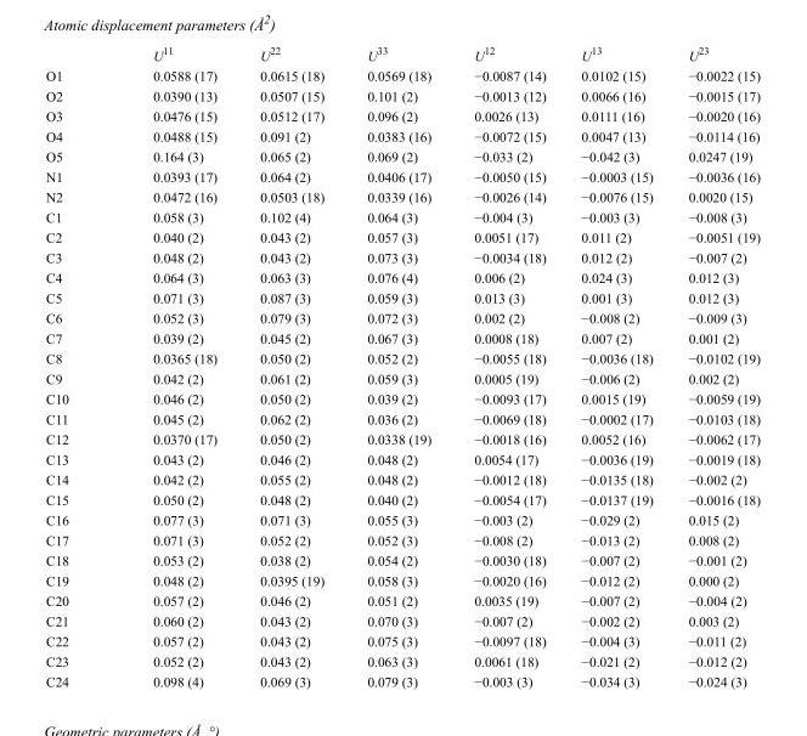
<table><thead><tr><td></td><td>U<sup>11</sup></td><td>U<sup>22</sup></td><td>U<sup>33</sup></td><td>U<sup>12</sup></td><td>U<sup>13</sup></td><td>U<sup>23</sup></td></tr></thead><tbody><tr><td>O1</td><td>0.0588 (17)</td><td>0.0615 (18)</td><td>0.0569 (18)</td><td>−0.0087 (14)</td><td>0.0102 (15)</td><td>−0.0022 (15)</td></tr><tr><td>O2</td><td>0.0390 (13)</td><td>0.0507 (15)</td><td>0.101 (2)</td><td>−0.0013 (12)</td><td>0.0066 (16)</td><td>−0.0015 (17)</td></tr><tr><td>O3</td><td>0.0476 (15)</td><td>0.0512 (17)</td><td>0.096 (2)</td><td>0.0026 (13)</td><td>0.0111 (16)</td><td>−0.0020 (16)</td></tr><tr><td>O4</td><td>0.0488 (15)</td><td>0.091 (2)</td><td>0.0383 (16)</td><td>−0.0072 (15)</td><td>0.0047 (13)</td><td>−0.0114 (16)</td></tr><tr><td>O5</td><td>0.164 (3)</td><td>0.065 (2)</td><td>0.069 (2)</td><td>−0.033 (2)</td><td>−0.042 (3)</td><td>0.0247 (19)</td></tr><tr><td>N1</td><td>0.0393 (17)</td><td>0.064 (2)</td><td>0.0406 (17)</td><td>−0.0050 (15)</td><td>−0.0003 (15)</td><td>−0.0036 (16)</td></tr><tr><td>N2</td><td>0.0472 (16)</td><td>0.0503 (18)</td><td>0.0339 (16)</td><td>−0.0026 (14)</td><td>−0.0076 (15)</td><td>0.0020 (15)</td></tr><tr><td>C1</td><td>0.058 (3)</td><td>0.102 (4)</td><td>0.064 (3)</td><td>−0.004 (3)</td><td>−0.003 (3)</td><td>−0.008 (3)</td></tr><tr><td>C2</td><td>0.040 (2)</td><td>0.043 (2)</td><td>0.057 (3)</td><td>0.0051 (17)</td><td>0.011 (2)</td><td>−0.0051 (19)</td></tr><tr><td>C3</td><td>0.048 (2)</td><td>0.043 (2)</td><td>0.073 (3)</td><td>−0.0034 (18)</td><td>0.012 (2)</td><td>−0.007 (2)</td></tr><tr><td>C4</td><td>0.064 (3)</td><td>0.063 (3)</td><td>0.076 (4)</td><td>0.006 (2)</td><td>0.024 (3)</td><td>0.012 (3)</td></tr><tr><td>C5</td><td>0.071 (3)</td><td>0.087 (3)</td><td>0.059 (3)</td><td>0.013 (3)</td><td>0.001 (3)</td><td>0.012 (3)</td></tr><tr><td>C6</td><td>0.052 (3)</td><td>0.079 (3)</td><td>0.072 (3)</td><td>0.002 (2)</td><td>−0.008 (2)</td><td>−0.009 (3)</td></tr><tr><td>C7</td><td>0.039 (2)</td><td>0.045 (2)</td><td>0.067 (3)</td><td>0.0008 (18)</td><td>0.007 (2)</td><td>0.001 (2)</td></tr><tr><td>C8</td><td>0.0365 (18)</td><td>0.050 (2)</td><td>0.052 (2)</td><td>−0.0055 (18)</td><td>−0.0036 (18)</td><td>−0.0102 (19)</td></tr><tr><td>C9</td><td>0.042 (2)</td><td>0.061 (2)</td><td>0.059 (3)</td><td>0.0005 (19)</td><td>−0.006 (2)</td><td>0.002 (2)</td></tr><tr><td>C10</td><td>0.046 (2)</td><td>0.050 (2)</td><td>0.039 (2)</td><td>−0.0093 (17)</td><td>0.0015 (19)</td><td>−0.0059 (19)</td></tr><tr><td>C11</td><td>0.045 (2)</td><td>0.062 (2)</td><td>0.036 (2)</td><td>−0.0069 (18)</td><td>−0.0002 (17)</td><td>−0.0103 (18)</td></tr><tr><td>C12</td><td>0.0370 (17)</td><td>0.050 (2)</td><td>0.0338 (19)</td><td>−0.0018 (16)</td><td>0.0052 (16)</td><td>−0.0062 (17)</td></tr><tr><td>C13</td><td>0.043 (2)</td><td>0.046 (2)</td><td>0.048 (2)</td><td>0.0054 (17)</td><td>−0.0036 (19)</td><td>−0.0019 (18)</td></tr><tr><td>C14</td><td>0.042 (2)</td><td>0.055 (2)</td><td>0.048 (2)</td><td>−0.0012 (18)</td><td>−0.0135 (18)</td><td>−0.002 (2)</td></tr><tr><td>C15</td><td>0.050 (2)</td><td>0.048 (2)</td><td>0.040 (2)</td><td>−0.0054 (17)</td><td>−0.0137 (19)</td><td>−0.0016 (18)</td></tr><tr><td>C16</td><td>0.077 (3)</td><td>0.071 (3)</td><td>0.055 (3)</td><td>−0.003 (2)</td><td>−0.029 (2)</td><td>0.015 (2)</td></tr><tr><td>C17</td><td>0.071 (3)</td><td>0.052 (2)</td><td>0.052 (3)</td><td>−0.008 (2)</td><td>−0.013 (2)</td><td>0.008 (2)</td></tr><tr><td>C18</td><td>0.053 (2)</td><td>0.038 (2)</td><td>0.054 (2)</td><td>−0.0030 (18)</td><td>−0.007 (2)</td><td>−0.001 (2)</td></tr><tr><td>C19</td><td>0.048 (2)</td><td>0.0395 (19)</td><td>0.058 (3)</td><td>−0.0020 (16)</td><td>−0.012 (2)</td><td>0.000 (2)</td></tr><tr><td>C20</td><td>0.057 (2)</td><td>0.046 (2)</td><td>0.051 (2)</td><td>0.0035 (19)</td><td>−0.007 (2)</td><td>−0.004 (2)</td></tr><tr><td>C21</td><td>0.060 (2)</td><td>0.043 (2)</td><td>0.070 (3)</td><td>−0.007 (2)</td><td>−0.002 (2)</td><td>0.003 (2)</td></tr><tr><td>C22</td><td>0.057 (2)</td><td>0.043 (2)</td><td>0.075 (3)</td><td>−0.0097 (18)</td><td>−0.004 (3)</td><td>−0.011 (2)</td></tr><tr><td>C23</td><td>0.052 (2)</td><td>0.043 (2)</td><td>0.063 (3)</td><td>0.0061 (18)</td><td>−0.021 (2)</td><td>−0.012 (2)</td></tr><tr><td>C24</td><td>0.098 (4)</td><td>0.069 (3)</td><td>0.079 (3)</td><td>−0.003 (3)</td><td>−0.034 (3)</td><td>−0.024 (3)</td></tr></tbody></table>